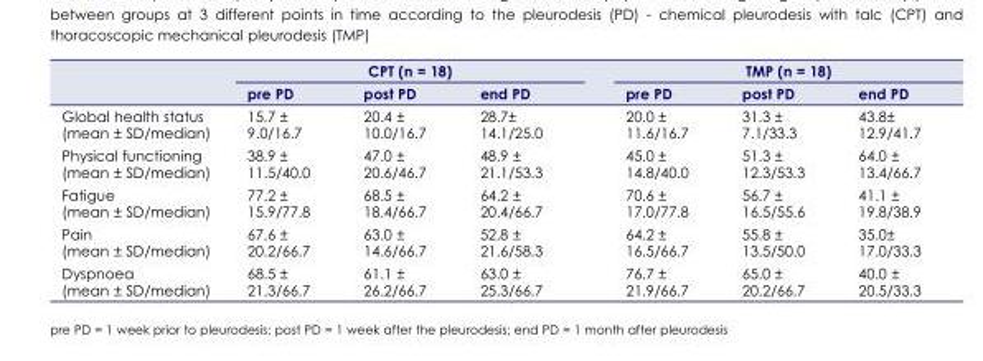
<table><thead><tr><td rowspan="2"></td><td colspan="3">CPT (n = 18)</td><td colspan="3">TMP (n = 18)</td></tr><tr><td>pre PD</td><td>post PD</td><td>end PD</td><td>pre PD</td><td>post PD</td><td>end PD</td></tr></thead><tbody><tr><td>Global health status (mean ± SD/median)</td><td>15.7 ± 9.0/16.7</td><td>20.4 ± 10.0/16.7</td><td>28.7± 14.1/25.0</td><td>20.0 ± 11.6/16.7</td><td>31.3 ± 7.1/33.3</td><td>43.8± 12.9/41.7</td></tr><tr><td>Physical functioning (mean ± SD/median)</td><td>38.9 ± 11.5/40.0</td><td>47.0 ± 20.6/46.7</td><td>48.9 ± 21.1/53.3</td><td>45.0 ± 14.8/40.0</td><td>51.3 ± 12.3/53.3</td><td>64.0 ± 13.4/66.7</td></tr><tr><td>Fatigue (mean ± SD/median)</td><td>77.2 ± 15.9/77.8</td><td>68.5 ± 18.4/66.7</td><td>64.2 ± 20.4/66.7</td><td>70.6 ± 17.0/77.8</td><td>56.7 ± 16.5/55.6</td><td>41.1 ± 19.8/38.9</td></tr><tr><td>Pain (mean ± SD/median)</td><td>67.6 ± 20.2/66.7</td><td>63.0 ± 14.6/66.7</td><td>52.8 ± 21.6/58.3</td><td>64.2 ± 16.5/66.7</td><td>55.8 ± 13.5/50.0</td><td>35.0± 17.0/33.3</td></tr><tr><td>Dyspnoea (mean ± SD/median)</td><td>68.5 ± 21.3/66.7</td><td>61.1 ± 26.2/66.7</td><td>63.0 ± 25.3/66.7</td><td>76.7 ± 21.9/66.7</td><td>65.0 ± 20.2/66.7</td><td>40.0 ± 20.5/33.3</td></tr></tbody></table>